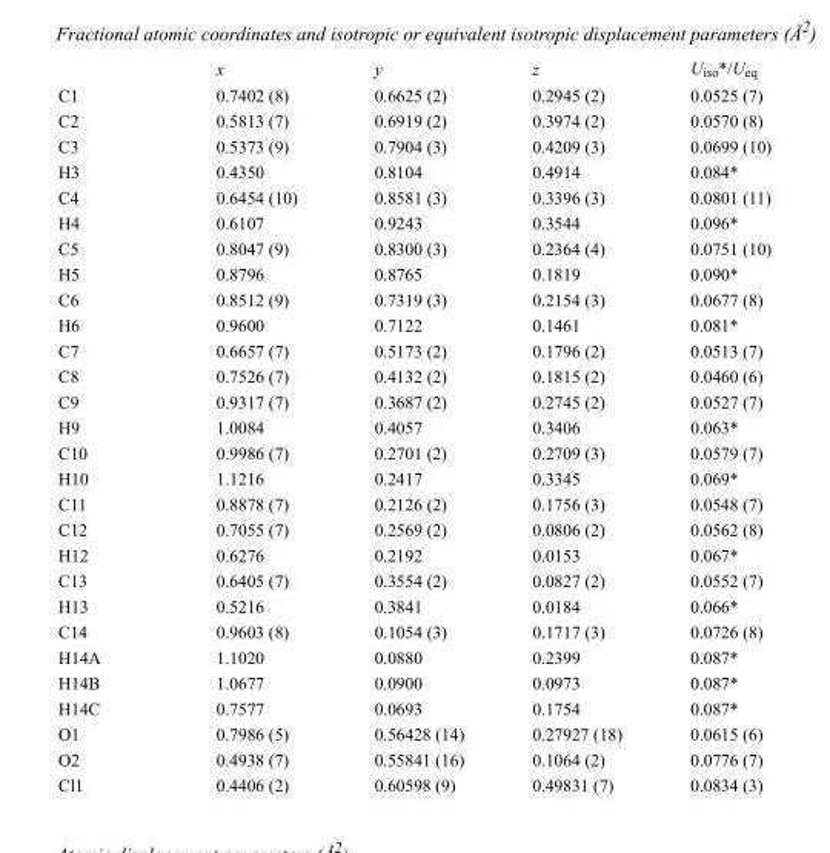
<table><thead><tr><td></td><td>x</td><td>y</td><td>z</td><td>U<sub>iso</sub>*/U<sub>eq</sub></td></tr></thead><tbody><tr><td>C1</td><td>0.7402 (8)</td><td>0.6625 (2)</td><td>0.2945 (2)</td><td>0.0525 (7)</td></tr><tr><td>C2</td><td>0.5813 (7)</td><td>0.6919 (2)</td><td>0.3974 (2)</td><td>0.0570 (8)</td></tr><tr><td>C3</td><td>0.5373 (9)</td><td>0.7904 (3)</td><td>0.4209 (3)</td><td>0.0699 (10)</td></tr><tr><td>H3</td><td>0.4350</td><td>0.8104</td><td>0.4914</td><td>0.084*</td></tr><tr><td>C4</td><td>0.6454 (10)</td><td>0.8581 (3)</td><td>0.3396 (3)</td><td>0.0801 (11)</td></tr><tr><td>H4</td><td>0.6107</td><td>0.9243</td><td>0.3544</td><td>0.096*</td></tr><tr><td>C5</td><td>0.8047 (9)</td><td>0.8300 (3)</td><td>0.2364 (4)</td><td>0.0751 (10)</td></tr><tr><td>H5</td><td>0.8796</td><td>0.8765</td><td>0.1819</td><td>0.090*</td></tr><tr><td>C6</td><td>0.8512 (9)</td><td>0.7319 (3)</td><td>0.2154 (3)</td><td>0.0677 (8)</td></tr><tr><td>H6</td><td>0.9600</td><td>0.7122</td><td>0.1461</td><td>0.081*</td></tr><tr><td>C7</td><td>0.6657 (7)</td><td>0.5173 (2)</td><td>0.1796 (2)</td><td>0.0513 (7)</td></tr><tr><td>C8</td><td>0.7526 (7)</td><td>0.4132 (2)</td><td>0.1815 (2)</td><td>0.0460 (6)</td></tr><tr><td>C9</td><td>0.9317 (7)</td><td>0.3687 (2)</td><td>0.2745 (2)</td><td>0.0527 (7)</td></tr><tr><td>H9</td><td>1.0084</td><td>0.4057</td><td>0.3406</td><td>0.063*</td></tr><tr><td>C10</td><td>0.9986 (7)</td><td>0.2701 (2)</td><td>0.2709 (3)</td><td>0.0579 (7)</td></tr><tr><td>H10</td><td>1.1216</td><td>0.2417</td><td>0.3345</td><td>0.069*</td></tr><tr><td>C11</td><td>0.8878 (7)</td><td>0.2126 (2)</td><td>0.1756 (3)</td><td>0.0548 (7)</td></tr><tr><td>C12</td><td>0.7055 (7)</td><td>0.2569 (2)</td><td>0.0806 (2)</td><td>0.0562 (8)</td></tr><tr><td>H12</td><td>0.6276</td><td>0.2192</td><td>0.0153</td><td>0.067*</td></tr><tr><td>C13</td><td>0.6405 (7)</td><td>0.3554 (2)</td><td>0.0827 (2)</td><td>0.0552 (7)</td></tr><tr><td>H13</td><td>0.5216</td><td>0.3841</td><td>0.0184</td><td>0.066*</td></tr><tr><td>C14</td><td>0.9603 (8)</td><td>0.1054 (3)</td><td>0.1717 (3)</td><td>0.0726 (8)</td></tr><tr><td>H14A</td><td>1.1020</td><td>0.0880</td><td>0.2399</td><td>0.087*</td></tr><tr><td>H14B</td><td>1.0677</td><td>0.0900</td><td>0.0973</td><td>0.087*</td></tr><tr><td>H14C</td><td>0.7577</td><td>0.0693</td><td>0.1754</td><td>0.087*</td></tr><tr><td>O1</td><td>0.7986 (5)</td><td>0.56428 (14)</td><td>0.27927 (18)</td><td>0.0615 (6)</td></tr><tr><td>O2</td><td>0.4938 (7)</td><td>0.55841 (16)</td><td>0.1064 (2)</td><td>0.0776 (7)</td></tr><tr><td>Cl1</td><td>0.4406 (2)</td><td>0.60598 (9)</td><td>0.49831 (7)</td><td>0.0834 (3)</td></tr></tbody></table>